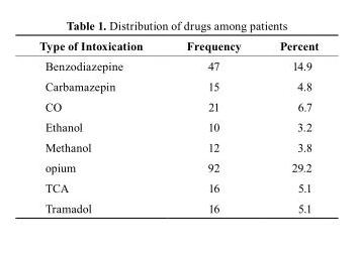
<table><thead><tr><td>Type of Intoxication</td><td>Frequency</td><td>Percent</td></tr></thead><tbody><tr><td>Benzodiazepine</td><td>47</td><td>14.9</td></tr><tr><td>Carbamazepin</td><td>15</td><td>4.8</td></tr><tr><td>CO</td><td>21</td><td>6.7</td></tr><tr><td>Ethanol</td><td>10</td><td>3.2</td></tr><tr><td>Methanol</td><td>12</td><td>3.8</td></tr><tr><td>opium</td><td>92</td><td>29.2</td></tr><tr><td>TCA</td><td>16</td><td>5.1</td></tr><tr><td>Tramadol</td><td>16</td><td>5.1</td></tr></tbody></table>